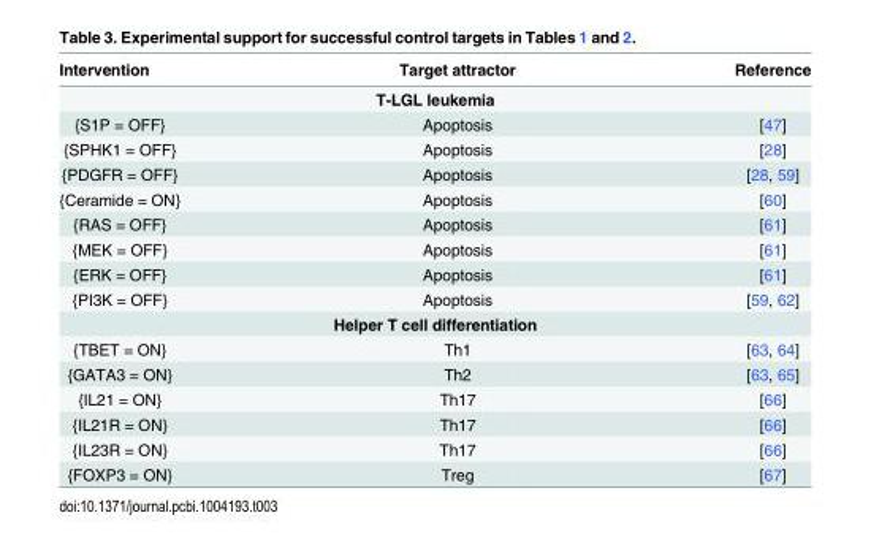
<table><thead><tr><td>Intervention</td><td>Target attractor</td><td>Reference</td></tr></thead><tbody><tr><td colspan="3">T-LGL leukemia</td></tr><tr><td>{S1P = OFF}</td><td>Apoptosis</td><td>[47]</td></tr><tr><td>{SPHK1 = OFF}</td><td>Apoptosis</td><td>[28]</td></tr><tr><td>{PDGFR = OFF}</td><td>Apoptosis</td><td>[28, 59]</td></tr><tr><td>{Ceramide = ON}</td><td>Apoptosis</td><td>[60]</td></tr><tr><td>{RAS = OFF}</td><td>Apoptosis</td><td>[61]</td></tr><tr><td>{MEK = OFF}</td><td>Apoptosis</td><td>[61]</td></tr><tr><td>{ERK = OFF}</td><td>Apoptosis</td><td>[61]</td></tr><tr><td>{PI3K = OFF}</td><td>Apoptosis</td><td>[59, 62]</td></tr><tr><td colspan="3">Helper T cell differentiation</td></tr><tr><td>{TBET = ON}</td><td>Th1</td><td>[63, 64]</td></tr><tr><td>{GATA3 = ON}</td><td>Th2</td><td>[63, 65]</td></tr><tr><td>{IL21 = ON}</td><td>Th17</td><td>[66]</td></tr><tr><td>{IL21R = ON}</td><td>Th17</td><td>[66]</td></tr><tr><td>{IL23R = ON}</td><td>Th17</td><td>[66]</td></tr><tr><td>{FOXP3 = ON}</td><td>Treg</td><td>[67]</td></tr></tbody></table>